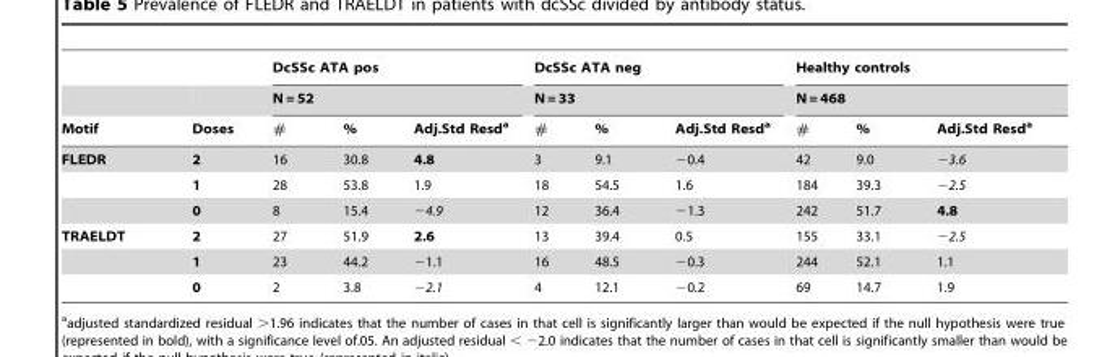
<table><thead><tr><td rowspan="3">Motif</td><td rowspan="3">Doses</td><td rowspan="2" colspan="3">DcSSc ATA pos N = 52</td><td rowspan="2" colspan="3">DcSSc ATA neg N = 33</td><td rowspan="2" colspan="3">Healthy controls N = 468</td></tr><tr></tr><tr><td>#</td><td>%</td><td>Adj.Std Resd<sup>a</sup></td><td>#</td><td>%</td><td>Adj.Std Resd<sup>a</sup></td><td>#</td><td>%</td><td>Adj.Std Resd<sup>a</sup></td></tr></thead><tbody><tr><td rowspan="3">FLEDR</td><td>2</td><td>16</td><td>30.8</td><td>4.8</td><td>3</td><td>9.1</td><td>−0.4</td><td>42</td><td>9.0</td><td>−3.6</td></tr><tr><td>1</td><td>28</td><td>53.8</td><td>1.9</td><td>18</td><td>54.5</td><td>1.6</td><td>184</td><td>39.3</td><td>−2.5</td></tr><tr><td>0</td><td>8</td><td>15.4</td><td>−4.9</td><td>12</td><td>36.4</td><td>−1.3</td><td>242</td><td>51.7</td><td>4.8</td></tr><tr><td rowspan="3">TRAELDT</td><td>2</td><td>27</td><td>51.9</td><td>2.6</td><td>13</td><td>39.4</td><td>0.5</td><td>155</td><td>33.1</td><td>−2.5</td></tr><tr><td>1</td><td>23</td><td>44.2</td><td>−1.1</td><td>16</td><td>48.5</td><td>−0.3</td><td>244</td><td>52.1</td><td>1.1</td></tr><tr><td>0</td><td>2</td><td>3.8</td><td>−2.1</td><td>4</td><td>12.1</td><td>−0.2</td><td>69</td><td>14.7</td><td>1.9</td></tr></tbody></table>